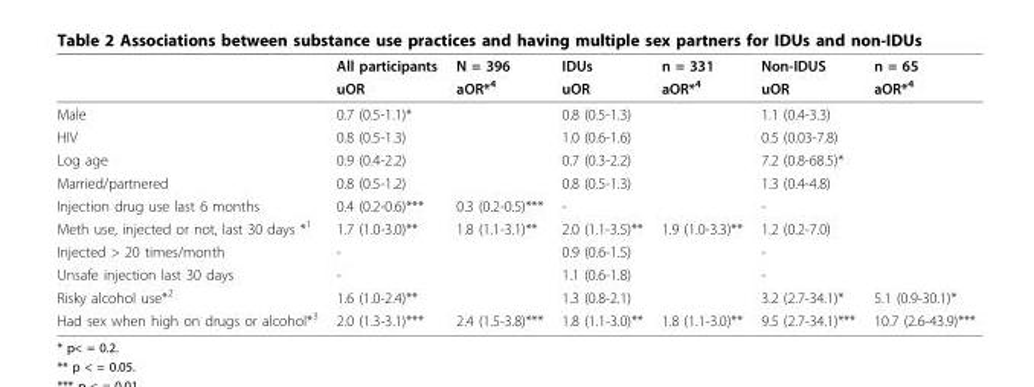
<table><thead><tr><td rowspan="2"></td><td rowspan="2">All participants uOR</td><td rowspan="2">N = 396 aOR*<sup>4</sup></td><td rowspan="2">IDUs uOR</td><td rowspan="2">n = 331 aOR*<sup>4</sup></td><td rowspan="2">Non-IDUS uOR</td><td rowspan="2">n = 65 aOR*<sup>4</sup></td></tr><tr></tr></thead><tbody><tr><td>Male</td><td>0.7 (0.5-1.1)*</td><td></td><td>0.8 (0.5-1.3)</td><td></td><td>1.1 (0.4-3.3)</td><td></td></tr><tr><td>HIV</td><td>0.8 (0.5-1.3)</td><td></td><td>1.0 (0.6-1.6)</td><td></td><td>0.5 (0.03-7.8)</td><td></td></tr><tr><td>Log age</td><td>0.9 (0.4-2.2)</td><td></td><td>0.7 (0.3-2.2)</td><td></td><td>7.2 (0.8-68.5)*</td><td></td></tr><tr><td>Married/partnered</td><td>0.8 (0.5-1.2)</td><td></td><td>0.8 (0.5-1.3)</td><td></td><td>1.3 (0.4-4.8)</td><td></td></tr><tr><td>Injection drug use last 6 months</td><td>0.4 (0.2-0.6)***</td><td>0.3 (0.2-0.5)***</td><td>-</td><td></td><td>-</td><td></td></tr><tr><td>Meth use, injected or not, last 30 days *<sup>1</sup></td><td>1.7 (1.0-3.0)**</td><td>1.8 (1.1-3.1)**</td><td>2.0 (1.1-3.5)**</td><td>1.9 (1.0-3.3)**</td><td>1.2 (0.2-7.0)</td><td></td></tr><tr><td>Injected &gt; 20 times/month</td><td>-</td><td></td><td>0.9 (0.6-1.5)</td><td></td><td>-</td><td></td></tr><tr><td>Unsafe injection last 30 days</td><td>-</td><td></td><td>1.1 (0.6-1.8)</td><td></td><td>-</td><td></td></tr><tr><td>Risky alcohol use*<sup>2</sup></td><td>1.6 (1.0-2.4)**</td><td></td><td>1.3 (0.8-2.1)</td><td></td><td>3.2 (2.7-34.1)*</td><td>5.1 (0.9-30.1)*</td></tr><tr><td>Had sex when high on drugs or alcohol*<sup>3</sup></td><td>2.0 (1.3-3.1)***</td><td>2.4 (1.5-3.8)***</td><td>1.8 (1.1-3.0)**</td><td>1.8 (1.1-3.0)**</td><td>9.5 (2.7-34.1)***</td><td>10.7 (2.6-43.9)***</td></tr></tbody></table>